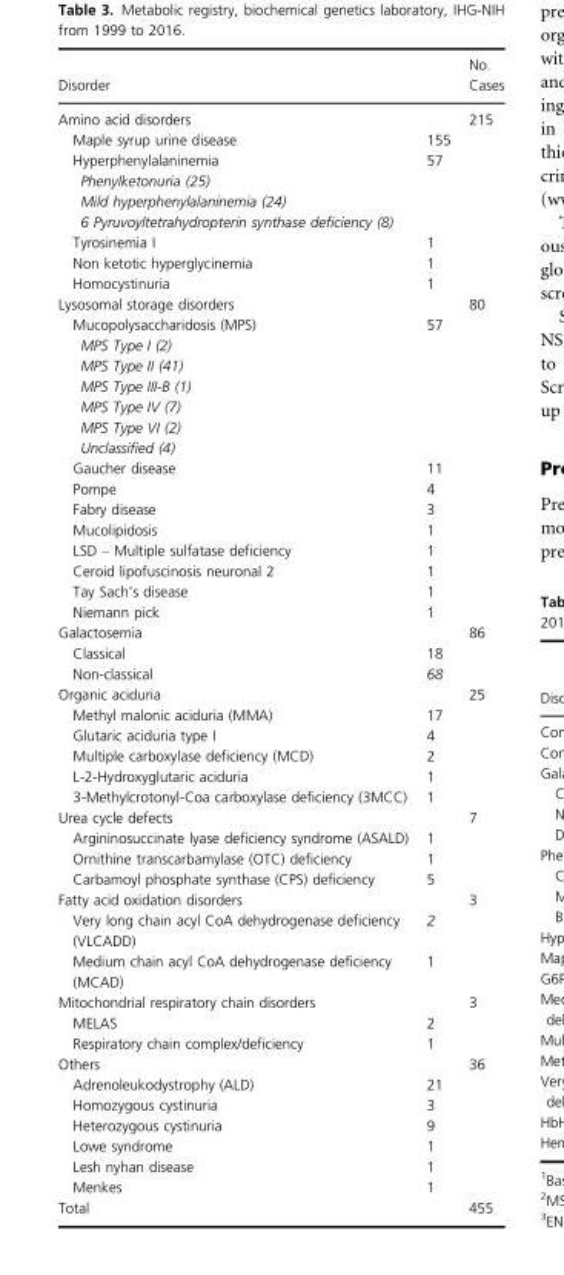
<table><thead><tr><td rowspan="2" colspan="2">Disorder Amino acid disorders</td><td rowspan="3">No. Cases 215</td></tr><tr></tr><tr><td>Maple syrup urine disease</td><td>155</td></tr></thead><tbody><tr><td>Hyperphenylalaninemia</td><td>57</td><td></td></tr><tr><td colspan="3">Phenylketonuria (25)</td></tr><tr><td colspan="3">Mild hyperphenylalaninemia (24)</td></tr><tr><td colspan="3">6 Pyruvoyltetrahydropterin synthase deficiency (8)</td></tr><tr><td>Tyrosinemia I</td><td>1</td><td></td></tr><tr><td>Non ketotic hyperglycinemia</td><td>1</td><td></td></tr><tr><td>Homocystinuria</td><td>1</td><td></td></tr><tr><td colspan="2">Lysosomal storage disorders</td><td>80</td></tr><tr><td>Mucopolysaccharidosis (MPS)</td><td>57</td><td></td></tr><tr><td colspan="3">MPS Type I (2)</td></tr><tr><td colspan="3">MPS Type II (41)</td></tr><tr><td colspan="3">MPS Type III-B (1)</td></tr><tr><td colspan="3">MPS Type IV (7)</td></tr><tr><td colspan="3">MPS Type VI (2)</td></tr><tr><td colspan="3">Unclassified (4)</td></tr><tr><td>Gaucher disease</td><td>11</td><td></td></tr><tr><td>Pompe</td><td>4</td><td></td></tr><tr><td>Fabry disease</td><td>3</td><td></td></tr><tr><td>Mucolipidosis</td><td>1</td><td></td></tr><tr><td>LSD – Multiple sulfatase deficiency</td><td>1</td><td></td></tr><tr><td>Ceroid lipofuscinosis neuronal 2</td><td>1</td><td></td></tr><tr><td>Tay Sach’s disease</td><td>1</td><td></td></tr><tr><td>Niemann pick</td><td>1</td><td></td></tr><tr><td colspan="2">Galactosemia</td><td>86</td></tr><tr><td>Classical</td><td>18</td><td></td></tr><tr><td>Non-classical</td><td>68</td><td></td></tr><tr><td colspan="2">Organic aciduria</td><td>25</td></tr><tr><td>Methyl malonic aciduria (MMA)</td><td>17</td><td></td></tr><tr><td>Glutaric aciduria type I</td><td>4</td><td></td></tr><tr><td>Multiple carboxylase deficiency (MCD)</td><td>2</td><td></td></tr><tr><td>L-2-Hydroxyglutaric aciduria</td><td>1</td><td></td></tr><tr><td>3-Methylcrotonyl-Coa carboxylase deficiency (3MCC)</td><td>1</td><td></td></tr><tr><td colspan="2">Urea cycle defects</td><td>7</td></tr><tr><td>Argininosuccinate lyase deficiency syndrome (ASALD)</td><td>1</td><td></td></tr><tr><td>Ornithine transcarbamylase (OTC) deficiency</td><td>1</td><td></td></tr><tr><td>Carbamoyl phosphate synthase (CPS) deficiency</td><td>5</td><td></td></tr><tr><td colspan="2">Fatty acid oxidation disorders</td><td>3</td></tr><tr><td>Very long chain acyl CoA dehydrogenase deficiency (VLCADD)</td><td>2</td><td></td></tr><tr><td>Medium chain acyl CoA dehydrogenase deficiency (MCAD)</td><td>1</td><td></td></tr><tr><td colspan="2">Mitochondrial respiratory chain disorders</td><td>3</td></tr><tr><td>MELAS</td><td>2</td><td></td></tr><tr><td>Respiratory chain complex/deficiency</td><td>1</td><td></td></tr><tr><td colspan="2">Others</td><td>36</td></tr><tr><td>Adrenoleukodystrophy (ALD)</td><td>21</td><td></td></tr><tr><td>Homozygous cystinuria</td><td>3</td><td></td></tr><tr><td>Heterozygous cystinuria</td><td>9</td><td></td></tr><tr><td>Lowe syndrome</td><td>1</td><td></td></tr><tr><td>Lesh nyhan disease</td><td>1</td><td></td></tr><tr><td>Menkes</td><td>1</td><td></td></tr><tr><td colspan="2">Total</td><td>455</td></tr></tbody></table>